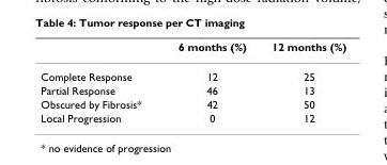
<table><thead><tr><td></td><td>6 months (%)</td><td>12 months (%)</td></tr></thead><tbody><tr><td>Complete Response</td><td>12</td><td>25</td></tr><tr><td>Partial Response</td><td>46</td><td>13</td></tr><tr><td>Obscured by Fibrosis*</td><td>42</td><td>50</td></tr><tr><td>Local Progression</td><td>0</td><td>12</td></tr></tbody></table>